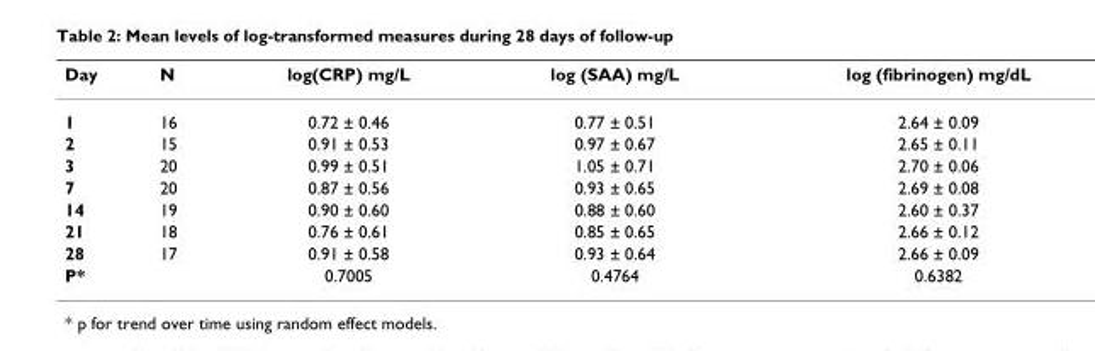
<table><thead><tr><td>Day</td><td>N</td><td>log(CRP) mg/L</td><td>log (SAA) mg/L</td><td>log (fibrinogen) mg/dL</td></tr></thead><tbody><tr><td>1</td><td>16</td><td>0.72 ± 0.46</td><td>0.77 ± 0.51</td><td>2.64 ± 0.09</td></tr><tr><td>2</td><td>15</td><td>0.91 ± 0.53</td><td>0.97 ± 0.67</td><td>2.65 ± 0.11</td></tr><tr><td>3</td><td>20</td><td>0.99 ± 0.51</td><td>1.05 ± 0.71</td><td>2.70 ± 0.06</td></tr><tr><td>7</td><td>20</td><td>0.87 ± 0.56</td><td>0.93 ± 0.65</td><td>2.69 ± 0.08</td></tr><tr><td>14</td><td>19</td><td>0.90 ± 0.60</td><td>0.88 ± 0.60</td><td>2.60 ± 0.37</td></tr><tr><td>21</td><td>18</td><td>0.76 ± 0.61</td><td>0.85 ± 0.65</td><td>2.66 ± 0.12</td></tr><tr><td>28</td><td>17</td><td>0.91 ± 0.58</td><td>0.93 ± 0.64</td><td>2.66 ± 0.09</td></tr><tr><td>P*</td><td></td><td>0.7005</td><td>0.4764</td><td>0.6382</td></tr></tbody></table>